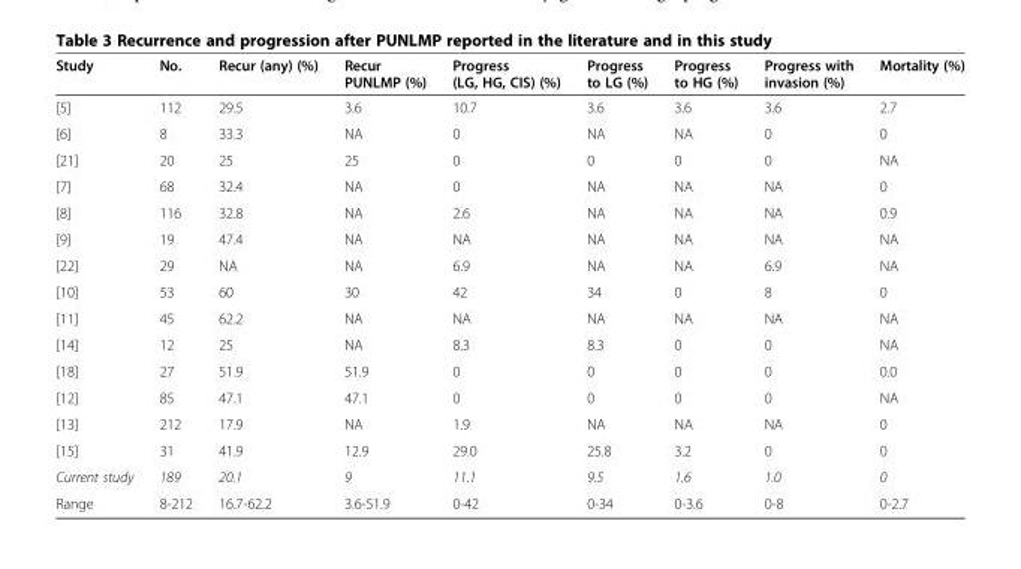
<table><thead><tr><td>Study</td><td>No.</td><td>Recur (any) (%)</td><td>Recur PUNLMP (%)</td><td>Progress (LG, HG, CIS) (%)</td><td>Progress to LG (%)</td><td>Progress to HG (%)</td><td>Progress with invasion (%)</td><td>Mortality (%)</td></tr></thead><tbody><tr><td>[5]</td><td>112</td><td>29.5</td><td>3.6</td><td>10.7</td><td>3.6</td><td>3.6</td><td>3.6</td><td>2.7</td></tr><tr><td>[6]</td><td>8</td><td>33.3</td><td>NA</td><td>0</td><td>NA</td><td>NA</td><td>0</td><td>0</td></tr><tr><td>[21]</td><td>20</td><td>25</td><td>25</td><td>0</td><td>0</td><td>0</td><td>0</td><td>NA</td></tr><tr><td>[7]</td><td>68</td><td>32.4</td><td>NA</td><td>0</td><td>NA</td><td>NA</td><td>NA</td><td>0</td></tr><tr><td>[8]</td><td>116</td><td>32.8</td><td>NA</td><td>2.6</td><td>NA</td><td>NA</td><td>NA</td><td>0.9</td></tr><tr><td>[9]</td><td>19</td><td>47.4</td><td>NA</td><td>NA</td><td>NA</td><td>NA</td><td>NA</td><td>NA</td></tr><tr><td>[22]</td><td>29</td><td>NA</td><td>NA</td><td>6.9</td><td>NA</td><td>NA</td><td>6.9</td><td>NA</td></tr><tr><td>[10]</td><td>53</td><td>60</td><td>30</td><td>42</td><td>34</td><td>0</td><td>8</td><td>0</td></tr><tr><td>[11]</td><td>45</td><td>62.2</td><td>NA</td><td>NA</td><td>NA</td><td>NA</td><td>NA</td><td>NA</td></tr><tr><td>[14]</td><td>12</td><td>25</td><td>NA</td><td>8.3</td><td>8.3</td><td>0</td><td>0</td><td>NA</td></tr><tr><td>[18]</td><td>27</td><td>51.9</td><td>51.9</td><td>0</td><td>0</td><td>0</td><td>0</td><td>0.0</td></tr><tr><td>[12]</td><td>85</td><td>47.1</td><td>47.1</td><td>0</td><td>0</td><td>0</td><td>0</td><td>NA</td></tr><tr><td>[13]</td><td>212</td><td>17.9</td><td>NA</td><td>1.9</td><td>NA</td><td>NA</td><td>NA</td><td>0</td></tr><tr><td>[15]</td><td>31</td><td>41.9</td><td>12.9</td><td>29.0</td><td>25.8</td><td>3.2</td><td>0</td><td>0</td></tr><tr><td>Current study</td><td>189</td><td>20.1</td><td>9</td><td>11.1</td><td>9.5</td><td>1.6</td><td>1.0</td><td>0</td></tr><tr><td>Range</td><td>8-212</td><td>16.7-62.2</td><td>3.6-51.9</td><td>0-42</td><td>0-34</td><td>0-3.6</td><td>0-8</td><td>0-2.7</td></tr></tbody></table>